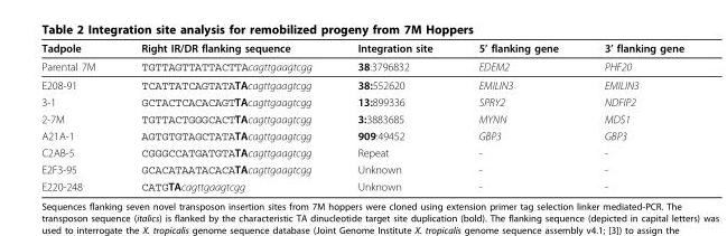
<table><thead><tr><td>Tadpole</td><td>Right IR/DR flanking sequence</td><td>Integration site</td><td>5’ flanking gene</td><td>3’ flanking gene</td></tr></thead><tbody><tr><td>Parental 7M</td><td>TGTTAGTTATTACTTAcagttgaagtcgg</td><td>38:3796832</td><td>EDEM2</td><td>PHF20</td></tr><tr><td>E208-91</td><td>TCATTATCAGTATATAcagttgaagtcgg</td><td>38:552620</td><td>EMILIN3</td><td>EMILIN3</td></tr><tr><td>3-1</td><td>GCTACTCACACAGTTAcagttgaagtcgg</td><td>13:899336</td><td>SPRY2</td><td>NDFIP2</td></tr><tr><td>2-7M</td><td>TGTTACTGGGCACTTAcagttgaagtcgg</td><td>3:3883685</td><td>MYNN</td><td>MDS1</td></tr><tr><td>A21A-1</td><td>AGTGTGTAGCTATATAcagttgaagtcgg</td><td>909:49452</td><td>GBP3</td><td>GBP3</td></tr><tr><td>C2AB-5</td><td>CGGGCCATGATGTATAcagttgaagtcgg</td><td>Repeat</td><td>-</td><td>-</td></tr><tr><td>E2F3-95</td><td>GCACATAATACACATAcagttgaagtcgg</td><td>Unknown</td><td>-</td><td>-</td></tr><tr><td>E220-248</td><td>CATGTAcagttgaagtcgg</td><td>Unknown</td><td>-</td><td>-</td></tr></tbody></table>